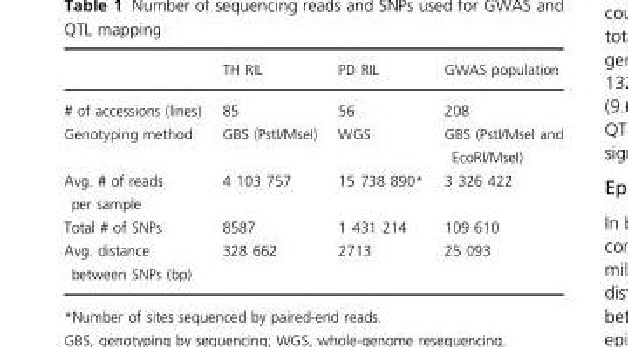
<table><thead><tr><td></td><td>TH RIL</td><td>PD RIL</td><td>GWAS population</td></tr></thead><tbody><tr><td># of accessions (lines)</td><td>85</td><td>56</td><td>208</td></tr><tr><td>Genotyping method</td><td>GBS (PstI/MseI)</td><td>WGS</td><td>GBS (PstI/MseI and EcoRI/MseI)</td></tr><tr><td>Avg. # of reads per sample</td><td>4 103 757</td><td>15 738 890*</td><td>3 326 422</td></tr><tr><td>Total # of SNPs</td><td>8587</td><td>1 431 214</td><td>109 610</td></tr><tr><td>Avg. distance between SNPs (bp)</td><td>328 662</td><td>2713</td><td>25 093</td></tr></tbody></table>